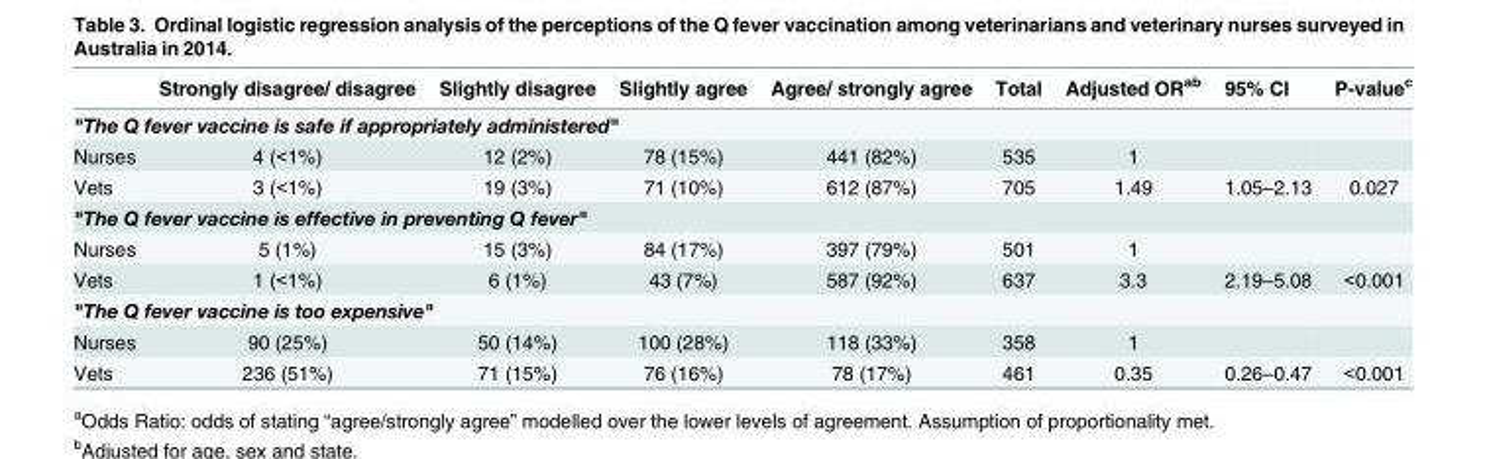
<table><thead><tr><td></td><td>Strongly disagree/ disagree</td><td>Slightly disagree</td><td>Slightly agree</td><td>Agree/ strongly agree</td><td>Total</td><td>Adjusted OR<sup>ab</sup></td><td>95% CI</td><td>P-value<sup>c</sup></td></tr></thead><tbody><tr><td colspan="9">&quot;The Q fever vaccine is safe if appropriately administered&quot;</td></tr><tr><td>Nurses</td><td>4 (&lt;1%)</td><td>12 (2%)</td><td>78 (15%)</td><td>441 (82%)</td><td>535</td><td>1</td><td></td><td></td></tr><tr><td>Vets</td><td>3 (&lt;1%)</td><td>19 (3%)</td><td>71 (10%)</td><td>612 (87%)</td><td>705</td><td>1.49</td><td>1.05–2.13</td><td>0.027</td></tr><tr><td colspan="9">&quot;The Q fever vaccine is effective in preventing Q fever&quot;</td></tr><tr><td>Nurses</td><td>5 (1%)</td><td>15 (3%)</td><td>84 (17%)</td><td>397 (79%)</td><td>501</td><td>1</td><td></td><td></td></tr><tr><td>Vets</td><td>1 (&lt;1%)</td><td>6 (1%)</td><td>43 (7%)</td><td>587 (92%)</td><td>637</td><td>3.3</td><td>2.19–5.08</td><td>&lt;0.001</td></tr><tr><td colspan="9">&quot;The Q fever vaccine is too expensive&quot;</td></tr><tr><td>Nurses</td><td>90 (25%)</td><td>50 (14%)</td><td>100 (28%)</td><td>118 (33%)</td><td>358</td><td>1</td><td></td><td></td></tr><tr><td>Vets</td><td>236 (51%)</td><td>71 (15%)</td><td>76 (16%)</td><td>78 (17%)</td><td>461</td><td>0.35</td><td>0.26–0.47</td><td>&lt;0.001</td></tr></tbody></table>